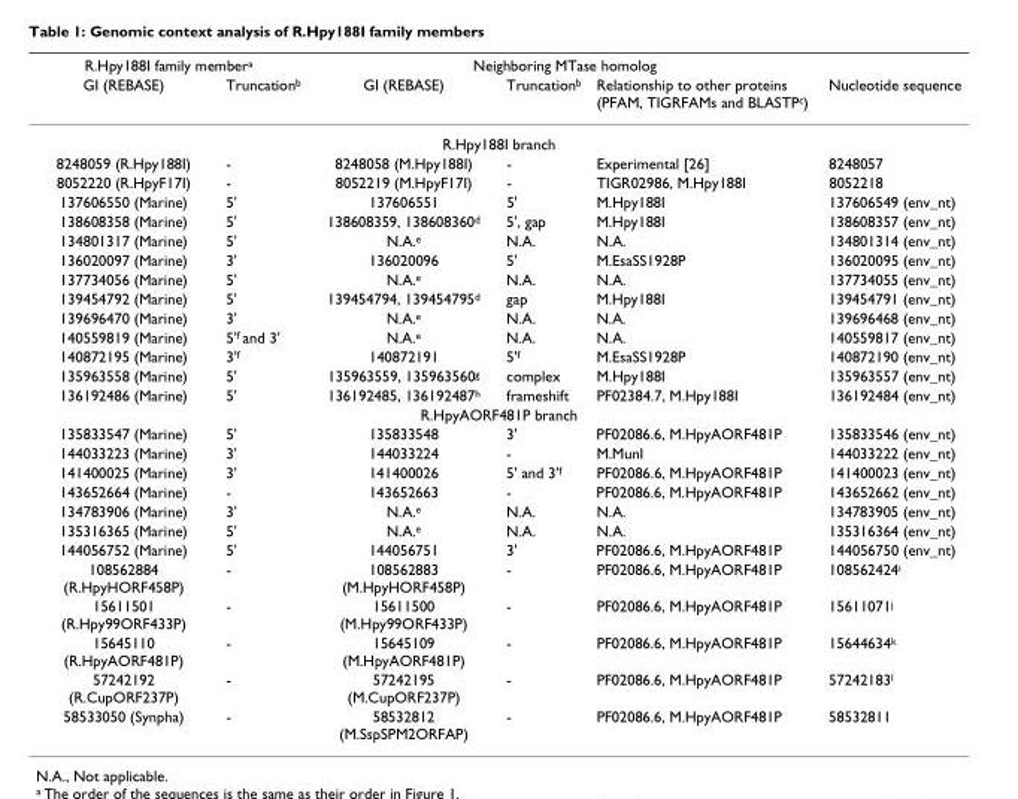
<table><thead><tr><td colspan="2">R.Hpy188I family member<sup>a</sup></td><td colspan="3">Neighboring MTase homolog</td><td rowspan="2">Nucleotide sequence</td></tr><tr><td>GI (REBASE)</td><td>Truncation<sup>b</sup></td><td>GI (REBASE)</td><td>Truncation<sup>b</sup></td><td>Relationship to other proteins (PFAM, TIGRFAMs and BLASTP<sup>c</sup>)</td></tr></thead><tbody><tr><td colspan="6">R.Hpy188I branch</td></tr><tr><td>8248059 (R.Hpy188I)</td><td>-</td><td>8248058 (M.Hpy188I)</td><td>-</td><td>Experimental [26]</td><td>8248057</td></tr><tr><td>8052220 (R.HpyF17I)</td><td>-</td><td>8052219 (M.HpyF17I)</td><td>-</td><td>TIGR02986, M.Hpy188I</td><td>8052218</td></tr><tr><td>137606550 (Marine)</td><td>5&#x27;</td><td>137606551</td><td>5&#x27;</td><td>M.Hpy188I</td><td>137606549 (env_nt)</td></tr><tr><td>138608358 (Marine)</td><td>5&#x27;</td><td>138608359, 138608360<sup>d</sup></td><td>5&#x27;, gap</td><td>M.Hpy188I</td><td>138608357 (env_nt)</td></tr><tr><td>134801317 (Marine)</td><td>5&#x27;</td><td>N.A.<sup>e</sup></td><td>N.A.</td><td>N.A.</td><td>134801314 (env_nt)</td></tr><tr><td>136020097 (Marine)</td><td>3&#x27;</td><td>136020096</td><td>5&#x27;</td><td>M.EsaSS1928P</td><td>136020095 (env_nt)</td></tr><tr><td>137734056 (Marine)</td><td>5&#x27;</td><td>N.A.<sup>e</sup></td><td>N.A.</td><td>N.A.</td><td>137734055 (env_nt)</td></tr><tr><td>139454792 (Marine)</td><td>5&#x27;</td><td>139454794, 139454795<sup>d</sup></td><td>gap</td><td>M.Hpy188I</td><td>139454791 (env_nt)</td></tr><tr><td>139696470 (Marine)</td><td>3&#x27;</td><td>N.A.<sup>e</sup></td><td>N.A.</td><td>N.A.</td><td>139696468 (env_nt)</td></tr><tr><td>140559819 (Marine)</td><td>5&#x27;<sup>f</sup> and 3&#x27;</td><td>N.A.<sup>e</sup></td><td>N.A.</td><td>N.A.</td><td>140559817 (env_nt)</td></tr><tr><td>140872195 (Marine)</td><td>3&#x27;<sup>f</sup></td><td>140872191</td><td>5&#x27;<sup>f</sup></td><td>M.EsaSS1928P</td><td>140872190 (env_nt)</td></tr><tr><td>135963558 (Marine)</td><td>5&#x27;</td><td>135963559, 135963560<sup>g</sup></td><td>complex</td><td>M.Hpy188I</td><td>135963557 (env_nt)</td></tr><tr><td>136192486 (Marine)</td><td>5&#x27;</td><td>136192485, 136192487<sup>h</sup></td><td>frameshift</td><td>PF02384.7, M.Hpy188I</td><td>136192484 (env_nt)</td></tr><tr><td colspan="6">R.HpyAORF481P branch</td></tr><tr><td>135833547 (Marine)</td><td>5&#x27;</td><td>135833548</td><td>3&#x27;</td><td>PF02086.6, M.HpyAORF481P</td><td>135833546 (env_nt)</td></tr><tr><td>144033223 (Marine)</td><td>3&#x27;</td><td>144033224</td><td>-</td><td>M.MunI</td><td>144033222 (env_nt)</td></tr><tr><td>141400025 (Marine)</td><td>3&#x27;</td><td>141400026</td><td>5&#x27; and 3&#x27;<sup>f</sup></td><td>PF02086.6, M.HpyAORF481P</td><td>141400023 (env_nt)</td></tr><tr><td>143652664 (Marine)</td><td>-</td><td>143652663</td><td>-</td><td>PF02086.6, M.HpyAORF481P</td><td>143652662 (env_nt)</td></tr><tr><td>134783906 (Marine)</td><td>3&#x27;</td><td>N.A.<sup>e</sup></td><td>N.A.</td><td>N.A.</td><td>134783905 (env_nt)</td></tr><tr><td>135316365 (Marine)</td><td>5&#x27;</td><td>N.A.<sup>e</sup></td><td>N.A.</td><td>N.A.</td><td>135316364 (env_nt)</td></tr><tr><td>144056752 (Marine)</td><td>5&#x27;</td><td>144056751</td><td>3&#x27;</td><td>PF02086.6, M.HpyAORF481P</td><td>144056750 (env_nt)</td></tr><tr><td>108562884 (R.HpyHORF458P)</td><td>-</td><td>108562883 (M.HpyHORF458P)</td><td>-</td><td>PF02086.6, M.HpyAORF481P</td><td>108562424<sup>i</sup></td></tr><tr><td>15611501 (R.Hpy99ORF433P)</td><td>-</td><td>15611500 (M.Hpy99ORF433P)</td><td>-</td><td>PF02086.6, M.HpyAORF481P</td><td>15611071<sup>j</sup></td></tr><tr><td>15645110 (R.HpyAORF481P)</td><td>-</td><td>15645109 (M.HpyAORF481P)</td><td>-</td><td>PF02086.6, M.HpyAORF481P</td><td>15644634<sup>k</sup></td></tr><tr><td>57242192 (R.CupORF237P)</td><td>-</td><td>57242195 (M.CupORF237P)</td><td>-</td><td>PF02086.6, M.HpyAORF481P</td><td>57242183<sup>l</sup></td></tr><tr><td>58533050 (Synpha)</td><td>-</td><td>58532812 (M.SspSPM2ORFAP)</td><td>-</td><td>PF02086.6, M.HpyAORF481P</td><td>58532811</td></tr></tbody></table>